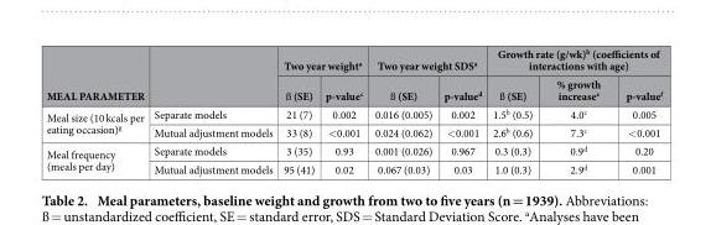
<table><thead><tr><td rowspan="2">MEAL PARAMETER</td><td rowspan="2"></td><td colspan="2">Two year weight<sup>a</sup></td><td colspan="2">Two year weight SDS<sup>a</sup></td><td colspan="3">Growth rate (g/wk)<sup>b</sup> (coefficients of interactions with age)</td></tr><tr><td>ß (SE)</td><td>p-value<sup>c</sup></td><td>ß (SE)</td><td>p-value<sup>d</sup></td><td>ß (SE)</td><td>% growth increase<sup>e</sup></td><td>p-value<sup>f</sup></td></tr></thead><tbody><tr><td rowspan="2">Meal size (10 kcals per eating occasion)<sup>g</sup></td><td>Separate models</td><td>21 (7)</td><td>0.002</td><td>0.016 (0.005)</td><td>0.002</td><td>1.5<sup>b</sup> (0.5)</td><td>4.0<sup>c</sup></td><td>0.005</td></tr><tr><td>Mutual adjustment models</td><td>33 (8)</td><td>&lt; 0.001</td><td>0.024 (0.062)</td><td>&lt; 0.001</td><td>2.6<sup>b</sup> (0.6)</td><td>7.3<sup>c</sup></td><td>&lt; 0.001</td></tr><tr><td rowspan="2">Meal frequency (meals per day)</td><td>Separate models</td><td>3 (35)</td><td>0.93</td><td>0.001 (0.026)</td><td>0.967</td><td>0.3 (0.3)</td><td>0.9<sup>d</sup></td><td>0.20</td></tr><tr><td>Mutual adjustment models</td><td>95 (41)</td><td>0.02</td><td>0.067 (0.03)</td><td>0.03</td><td>1.0 (0.3)</td><td>2.9<sup>d</sup></td><td>0.001</td></tr></tbody></table>